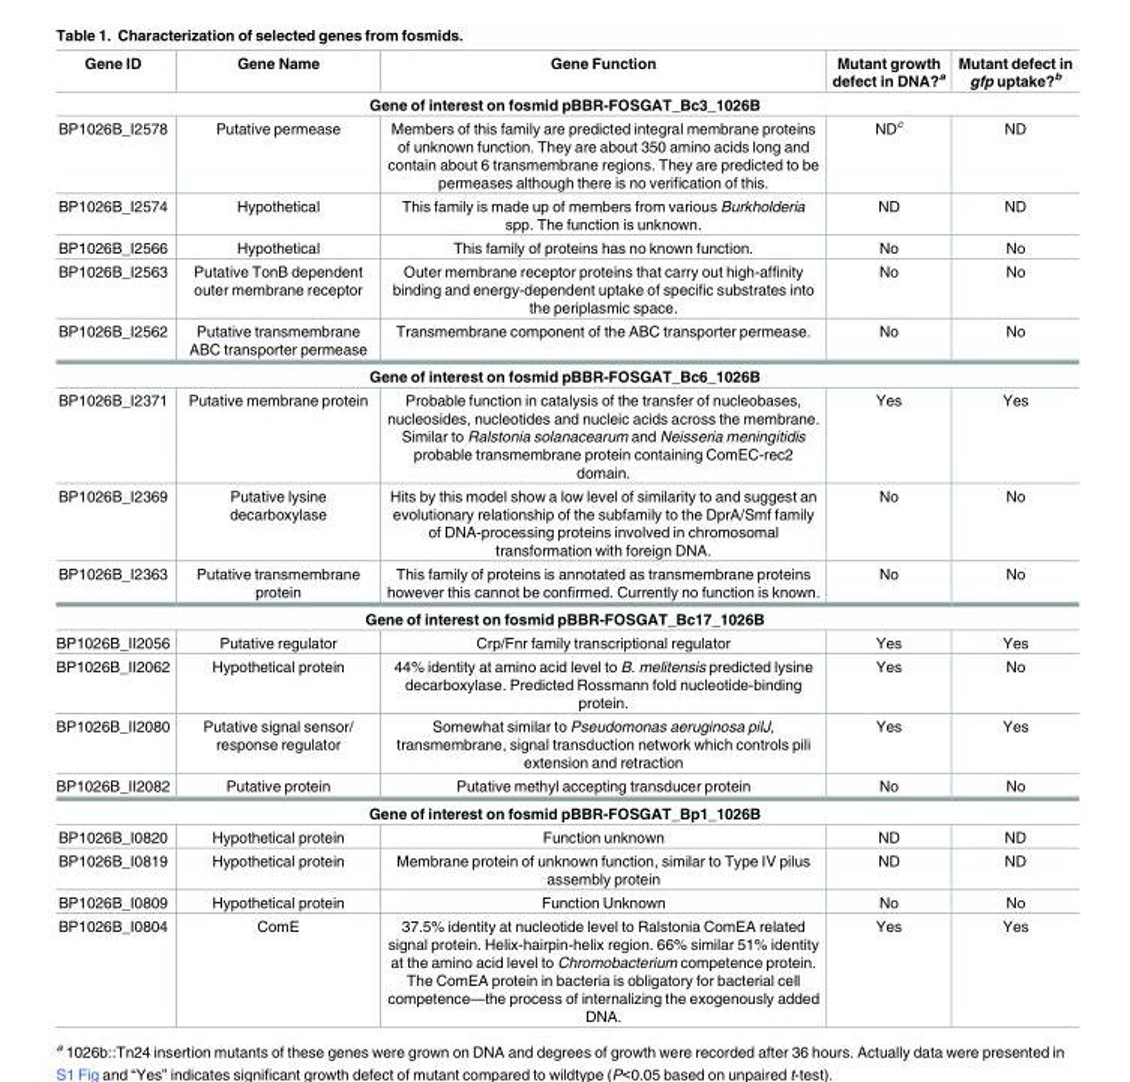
<table><thead><tr><td>Gene ID</td><td>Gene Name</td><td>Gene Function</td><td>Mutant growth defect in DNA?<sup>a</sup></td><td>Mutant defect in gfp uptake?<sup>b</sup></td></tr></thead><tbody><tr><td colspan="5">Gene of interest on fosmid pBBR-FOSGAT_Bc3_1026B</td></tr><tr><td>BP1026B_I2578</td><td>Putative permease</td><td>Members of this family are predicted integral membrane proteins of unknown function. They are about 350 amino acids long and contain about 6 transmembrane regions. They are predicted to be permeases although there is no verification of this.</td><td>ND<sup>c</sup></td><td>ND</td></tr><tr><td>BP1026B_I2574</td><td>Hypothetical</td><td>This family is made up of members from various Burkholderia spp. The function is unknown.</td><td>ND</td><td>ND</td></tr><tr><td>BP1026B_I2566</td><td>Hypothetical</td><td>This family of proteins has no known function.</td><td>No</td><td>No</td></tr><tr><td>BP1026B_I2563</td><td>Putative TonB dependent outer membrane receptor</td><td>Outer membrane receptor proteins that carry out high-affinity binding and energy-dependent uptake of specific substrates into the periplasmic space.</td><td>No</td><td>No</td></tr><tr><td>BP1026B_I2562</td><td>Putative transmembrane ABC transporter permease</td><td>Transmembrane component of the ABC transporter permease.</td><td>No</td><td>No</td></tr><tr><td colspan="5">Gene of interest on fosmid pBBR-FOSGAT_Bc6_1026B</td></tr><tr><td>BP1026B_I2371</td><td>Putative membrane protein</td><td>Probable function in catalysis of the transfer of nucleobases, nucleosides, nucleotides and nucleic acids across the membrane. Similar to Ralstonia solanacearum and Neisseria meningitidis probable transmembrane protein containing ComEC-rec2 domain.</td><td>Yes</td><td>Yes</td></tr><tr><td>BP1026B_I2369</td><td>Putative lysine decarboxylase</td><td>Hits by this model show a low level of similarity to and suggest an evolutionary relationship of the subfamily to the DprA/Smf family of DNA-processing proteins involved in chromosomal transformation with foreign DNA.</td><td>No</td><td>No</td></tr><tr><td>BP1026B_I2363</td><td>Putative transmembrane protein</td><td>This family of proteins is annotated as transmembrane proteins however this cannot be confirmed. Currently no function is known.</td><td>No</td><td>No</td></tr><tr><td colspan="5">Gene of interest on fosmid pBBR-FOSGAT_Bc17_1026B</td></tr><tr><td>BP1026B_II2056</td><td>Putative regulator</td><td>Crp/Fnr family transcriptional regulator</td><td>Yes</td><td>Yes</td></tr><tr><td>BP1026B_II2062</td><td>Hypothetical protein</td><td>44% identity at amino acid level to B. melitensis predicted lysine decarboxylase. Predicted Rossmann fold nucleotide-binding protein.</td><td>Yes</td><td>No</td></tr><tr><td>BP1026B_II2080</td><td>Putative signal sensor/ response regulator</td><td>Somewhat similar to Pseudomonas aeruginosa pilJ, transmembrane, signal transduction network which controls pili extension and retraction</td><td>Yes</td><td>Yes</td></tr><tr><td>BP1026B_II2082</td><td>Putative protein</td><td>Putative methyl accepting transducer protein</td><td>No</td><td>No</td></tr><tr><td colspan="5">Gene of interest on fosmid pBBR-FOSGAT_Bp1_1026B</td></tr><tr><td>BP1026B_I0820</td><td>Hypothetical protein</td><td>Function unknown</td><td>ND</td><td>ND</td></tr><tr><td>BP1026B_I0819</td><td>Hypothetical protein</td><td>Membrane protein of unknown function, similar to Type IV pilus assembly protein</td><td>ND</td><td>ND</td></tr><tr><td>BP1026B_I0809</td><td>Hypothetical protein</td><td>Function Unknown</td><td>No</td><td>No</td></tr><tr><td>BP1026B_I0804</td><td>ComE</td><td>37.5% identity at nucleotide level to Ralstonia ComEA related signal protein. Helix-hairpin-helix region. 66% similar 51% identity at the amino acid level to Chromobacterium competence protein. The ComEA protein in bacteria is obligatory for bacterial cell competence—the process of internalizing the exogenously added DNA.</td><td>Yes</td><td>Yes</td></tr></tbody></table>